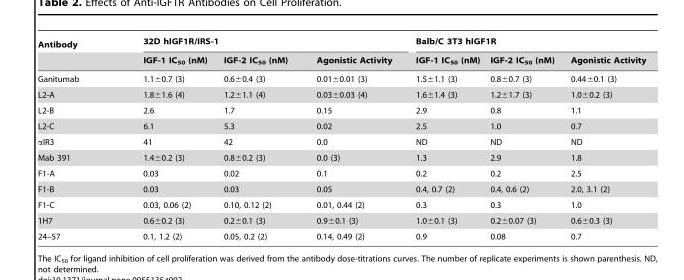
<table><thead><tr><td rowspan="2">Antibody</td><td colspan="3">32D hIGF1R/IRS-1</td><td colspan="3">Balb/C 3T3 hIGF1R</td></tr><tr><td>IGF-1 IC<sub>50</sub> (nM)</td><td>IGF-2 IC<sub>50</sub> (nM)</td><td>Agonistic Activity</td><td>IGF-1 IC<sub>50</sub> (nM)</td><td>IGF-2 IC<sub>50</sub> (nM)</td><td>Agonistic Activity</td></tr></thead><tbody><tr><td>Ganitumab</td><td>1.1±0.7 (3)</td><td>0.6±0.4 (3)</td><td>0.01±0.01 (3)</td><td>1.5±1.1 (3)</td><td>0.8±0.7 (3)</td><td>0.44±0.1 (3)</td></tr><tr><td>L2-A</td><td>1.8±1.6 (4)</td><td>1.2±1.1 (4)</td><td>0.03±0.03 (4)</td><td>1.6±1.4 (3)</td><td>1.2±1.7 (3)</td><td>1.0±0.2 (3)</td></tr><tr><td>L2-B</td><td>2.6</td><td>1.7</td><td>0.15</td><td>2.9</td><td>0.8</td><td>1.1</td></tr><tr><td>L2-C</td><td>6.1</td><td>5.3</td><td>0.02</td><td>2.5</td><td>1.0</td><td>0.7</td></tr><tr><td>αIR3</td><td>41</td><td>42</td><td>0.0</td><td>ND</td><td>ND</td><td>ND</td></tr><tr><td>Mab 391</td><td>1.4±0.2 (3)</td><td>0.8±0.2 (3)</td><td>0.0 (3)</td><td>1.3</td><td>2.9</td><td>1.8</td></tr><tr><td>F1-A</td><td>0.03</td><td>0.02</td><td>0.1</td><td>0.2</td><td>0.2</td><td>2.5</td></tr><tr><td>F1-B</td><td>0.03</td><td>0.03</td><td>0.05</td><td>0.4, 0.7 (2)</td><td>0.4, 0.6 (2)</td><td>2.0, 3.1 (2)</td></tr><tr><td>F1-C</td><td>0.03, 0.06 (2)</td><td>0.10, 0.12 (2)</td><td>0.01, 0.44 (2)</td><td>0.3</td><td>0.3</td><td>1.0</td></tr><tr><td>1H7</td><td>0.6±0.2 (3)</td><td>0.2±0.1 (3)</td><td>0.9±0.1 (3)</td><td>1.0±0.1 (3)</td><td>0.2±0.07 (3)</td><td>0.6±0.3 (3)</td></tr><tr><td>24–57</td><td>0.1, 1.2 (2)</td><td>0.05, 0.2 (2)</td><td>0.14, 0.49 (2)</td><td>0.9</td><td>0.08</td><td>0.7</td></tr></tbody></table>